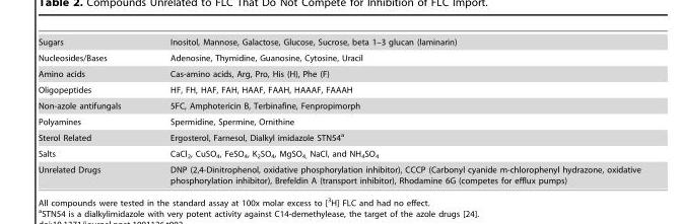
<table><tbody><tr><td>Sugars</td><td>Inositol, Mannose, Galactose, Glucose, Sucrose, beta 1–3 glucan (laminarin)</td></tr><tr><td>Nucleosides/Bases</td><td>Adenosine, Thymidine, Guanosine, Cytosine, Uracil</td></tr><tr><td>Amino acids</td><td>Cas-amino acids, Arg, Pro, His (H), Phe (F)</td></tr><tr><td>Oligopeptides</td><td>HF, FH, HAF, FAH, HAAF, FAAH, HAAAF, FAAAH</td></tr><tr><td>Non-azole antifungals</td><td>5FC, Amphotericin B, Terbinafine, Fenpropimorph</td></tr><tr><td>Polyamines</td><td>Spermidine, Spermine, Ornithine</td></tr><tr><td>Sterol Related</td><td>Ergosterol, Farnesol, Dialkyl imidazole STN54<sup>a</sup></td></tr><tr><td>Salts</td><td>CaCl<sub>2</sub>, CuSO<sub>4</sub>, FeSO<sub>4</sub>, K<sub>2</sub>SO<sub>4</sub>, MgSO<sub>4,</sub> NaCl, and NH<sub>4</sub>SO<sub>4</sub></td></tr><tr><td>Unrelated Drugs</td><td>DNP (2,4-Dinitrophenol, oxidative phosphorylation inhibitor), CCCP (Carbonyl cyanide m-chlorophenyl hydrazone, oxidative phosphorylation inhibitor), Brefeldin A (transport inhibitor), Rhodamine 6G (competes for efflux pumps)</td></tr></tbody></table>